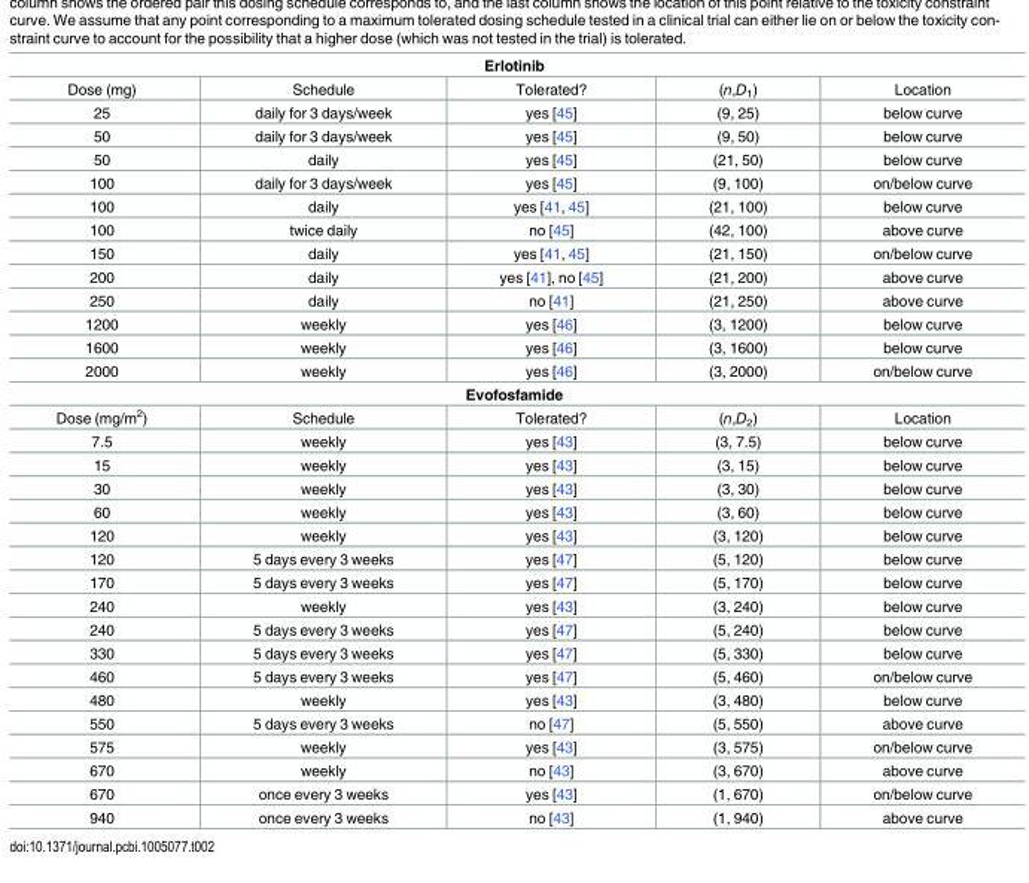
<table><tbody><tr><td colspan="5">Erlotinib</td></tr><tr><td>Dose (mg)</td><td>Schedule</td><td>Tolerated?</td><td>(n,D<sub>1</sub>)</td><td>Location</td></tr><tr><td>25</td><td>daily for 3 days/week</td><td>yes [45]</td><td>(9, 25)</td><td>below curve</td></tr><tr><td>50</td><td>daily for 3 days/week</td><td>yes [45]</td><td>(9, 50)</td><td>below curve</td></tr><tr><td>50</td><td>daily</td><td>yes [45]</td><td>(21, 50)</td><td>below curve</td></tr><tr><td>100</td><td>daily for 3 days/week</td><td>yes [45]</td><td>(9, 100)</td><td>on/below curve</td></tr><tr><td>100</td><td>daily</td><td>yes [41, 45]</td><td>(21, 100)</td><td>below curve</td></tr><tr><td>100</td><td>twice daily</td><td>no [45]</td><td>(42, 100)</td><td>above curve</td></tr><tr><td>150</td><td>daily</td><td>yes [41, 45]</td><td>(21, 150)</td><td>on/below curve</td></tr><tr><td>200</td><td>daily</td><td>yes [41], no [45]</td><td>(21, 200)</td><td>above curve</td></tr><tr><td>250</td><td>daily</td><td>no [41]</td><td>(21, 250)</td><td>above curve</td></tr><tr><td>1200</td><td>weekly</td><td>yes [46]</td><td>(3, 1200)</td><td>below curve</td></tr><tr><td>1600</td><td>weekly</td><td>yes [46]</td><td>(3, 1600)</td><td>below curve</td></tr><tr><td>2000</td><td>weekly</td><td>yes [46]</td><td>(3, 2000)</td><td>on/below curve</td></tr><tr><td colspan="5">Evofosfamide</td></tr><tr><td>Dose (mg/m<sup>2</sup>)</td><td>Schedule</td><td>Tolerated?</td><td>(n,D<sub>2</sub>)</td><td>Location</td></tr><tr><td>7.5</td><td>weekly</td><td>yes [43]</td><td>(3, 7.5)</td><td>below curve</td></tr><tr><td>15</td><td>weekly</td><td>yes [43]</td><td>(3, 15)</td><td>below curve</td></tr><tr><td>30</td><td>weekly</td><td>yes [43]</td><td>(3, 30)</td><td>below curve</td></tr><tr><td>60</td><td>weekly</td><td>yes [43]</td><td>(3, 60)</td><td>below curve</td></tr><tr><td>120</td><td>weekly</td><td>yes [43]</td><td>(3, 120)</td><td>below curve</td></tr><tr><td>120</td><td>5 days every 3 weeks</td><td>yes [47]</td><td>(5, 120)</td><td>below curve</td></tr><tr><td>170</td><td>5 days every 3 weeks</td><td>yes [47]</td><td>(5, 170)</td><td>below curve</td></tr><tr><td>240</td><td>weekly</td><td>yes [43]</td><td>(3, 240)</td><td>below curve</td></tr><tr><td>240</td><td>5 days every 3 weeks</td><td>yes [47]</td><td>(5, 240)</td><td>below curve</td></tr><tr><td>330</td><td>5 days every 3 weeks</td><td>yes [47]</td><td>(5, 330)</td><td>below curve</td></tr><tr><td>460</td><td>5 days every 3 weeks</td><td>yes [47]</td><td>(5, 460)</td><td>on/below curve</td></tr><tr><td>480</td><td>weekly</td><td>yes [43]</td><td>(3, 480)</td><td>below curve</td></tr><tr><td>550</td><td>5 days every 3 weeks</td><td>no [47]</td><td>(5, 550)</td><td>above curve</td></tr><tr><td>575</td><td>weekly</td><td>yes [43]</td><td>(3, 575)</td><td>on/below curve</td></tr><tr><td>670</td><td>weekly</td><td>no [43]</td><td>(3, 670)</td><td>above curve</td></tr><tr><td>670</td><td>once every 3 weeks</td><td>yes [43]</td><td>(1, 670)</td><td>on/below curve</td></tr><tr><td>940</td><td>once every 3 weeks</td><td>no [43]</td><td>(1, 940)</td><td>above curve</td></tr></tbody></table>